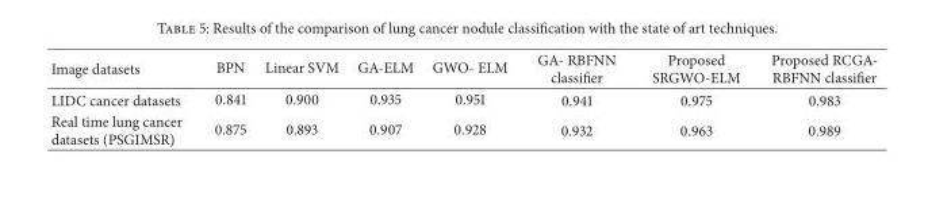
<table><thead><tr><td>Image datasets</td><td>BPN</td><td>Linear SVM</td><td>GA-ELM</td><td>GWO- ELM</td><td>GA- RBFNN classifier</td><td>Proposed SRGWO-ELM</td><td>Proposed RCGA- RBFNN classifier</td></tr></thead><tbody><tr><td>LIDC cancer datasets</td><td>0.841</td><td>0.900</td><td>0.935</td><td>0.951</td><td>0.941</td><td>0.975</td><td>0.983</td></tr><tr><td>Real time lung cancer datasets (PSGIMSR)</td><td>0.875</td><td>0.893</td><td>0.907</td><td>0.928</td><td>0.932</td><td>0.963</td><td>0.989</td></tr></tbody></table>